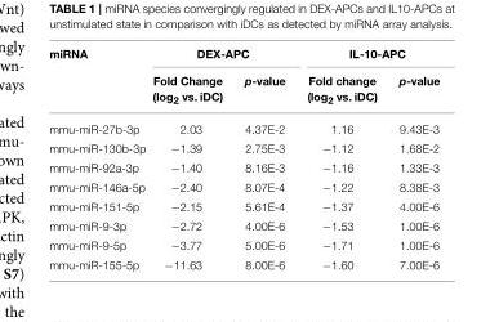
<table><thead><tr><td rowspan="2">miRNA</td><td colspan="2">DEX-APC</td><td colspan="2">IL-10-APC</td></tr><tr><td>Fold Change (log<sub>2</sub> vs. iDC)</td><td>p-value</td><td>Fold change (log<sub>2</sub> vs. iDC)</td><td>p-value</td></tr></thead><tbody><tr><td>mmu-miR-27b-3p</td><td>2.03</td><td>4.37E-2</td><td>1.16</td><td>9.43E-3</td></tr><tr><td>mmu-miR-130b-3p</td><td>−1.39</td><td>2.75E-3</td><td>−1.12</td><td>1.68E-2</td></tr><tr><td>mmu-miR-92a-3p</td><td>−1.40</td><td>8.16E-3</td><td>−1.16</td><td>1.33E-3</td></tr><tr><td>mmu-miR-146a-5p</td><td>−2.40</td><td>8.07E-4</td><td>−1.22</td><td>8.38E-3</td></tr><tr><td>mmu-miR-151-5p</td><td>−2.15</td><td>5.61E-4</td><td>−1.37</td><td>4.00E-6</td></tr><tr><td>mmu-miR-9-3p</td><td>−2.72</td><td>4.00E-6</td><td>−1.53</td><td>1.00E-6</td></tr><tr><td>mmu-miR-9-5p</td><td>−3.77</td><td>5.00E-6</td><td>−1.71</td><td>1.00E-6</td></tr><tr><td>mmu-miR-155-5p</td><td>−11.63</td><td>8.00E-6</td><td>−1.60</td><td>7.00E-6</td></tr></tbody></table>